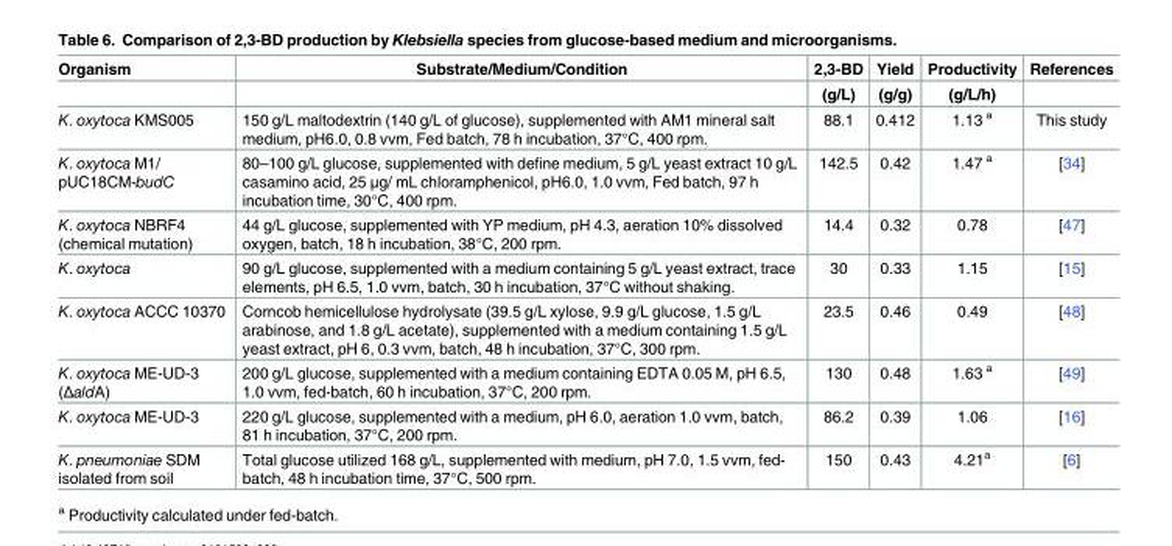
<table><thead><tr><td rowspan="2">Organism</td><td rowspan="2">Substrate/Medium/Condition</td><td rowspan="2">2,3-BD (g/L)</td><td rowspan="2">Yield (g/g)</td><td rowspan="2">Productivity (g/L/h)</td><td rowspan="2">References</td></tr><tr></tr></thead><tbody><tr><td>K. oxytoca KMS005</td><td>150 g/L maltodextrin (140 g/L of glucose), supplemented with AM1 mineral salt medium, pH6.0, 0.8 vvm, Fed batch, 78 h incubation, 37°C, 400 rpm.</td><td>88.1</td><td>0.412</td><td>1.13 <sup>a</sup></td><td>This study</td></tr><tr><td>K. oxytoca M1/ pUC18CM-budC</td><td>80–100 g/L glucose, supplemented with define medium, 5 g/L yeast extract 10 g/L casamino acid, 25 μg/ mL chloramphenicol, pH6.0, 1.0 vvm, Fed batch, 97 h incubation time, 30°C, 400 rpm.</td><td>142.5</td><td>0.42</td><td>1.47 <sup>a</sup></td><td>[34]</td></tr><tr><td>K. oxytoca NBRF4 (chemical mutation)</td><td>44 g/L glucose, supplemented with YP medium, pH 4.3, aeration 10% dissolved oxygen, batch, 18 h incubation, 38°C, 200 rpm.</td><td>14.4</td><td>0.32</td><td>0.78</td><td>[47]</td></tr><tr><td>K. oxytoca</td><td>90 g/L glucose, supplemented with a medium containing 5 g/L yeast extract, trace elements, pH 6.5, 1.0 vvm, batch, 30 h incubation, 37°C without shaking.</td><td>30</td><td>0.33</td><td>1.15</td><td>[15]</td></tr><tr><td>K. oxytoca ACCC 10370</td><td>Corncob hemicellulose hydrolysate (39.5 g/L xylose, 9.9 g/L glucose, 1.5 g/L arabinose, and 1.8 g/L acetate), supplemented with a medium containing 1.5 g/L yeast extract, pH 6, 0.3 vvm, batch, 48 h incubation, 37°C, 300 rpm.</td><td>23.5</td><td>0.46</td><td>0.49</td><td>[48]</td></tr><tr><td>K. oxytoca ME-UD-3 (ΔaldA)</td><td>200 g/L glucose, supplemented with a medium containing EDTA 0.05 M, pH 6.5, 1.0 vvm, fed-batch, 60 h incubation, 37°C, 200 rpm.</td><td>130</td><td>0.48</td><td>1.63 <sup>a</sup></td><td>[49]</td></tr><tr><td>K. oxytoca ME-UD-3</td><td>220 g/L glucose, supplemented with a medium, pH 6.0, aeration 1.0 vvm, batch, 81 h incubation, 37°C, 200 rpm.</td><td>86.2</td><td>0.39</td><td>1.06</td><td>[16]</td></tr><tr><td>K. pneumoniae SDM isolated from soil</td><td>Total glucose utilized 168 g/L, supplemented with medium, pH 7.0, 1.5 vvm, fed- batch, 48 h incubation time, 37°C, 500 rpm.</td><td>150</td><td>0.43</td><td>4.21<sup>a</sup></td><td>[6]</td></tr></tbody></table>